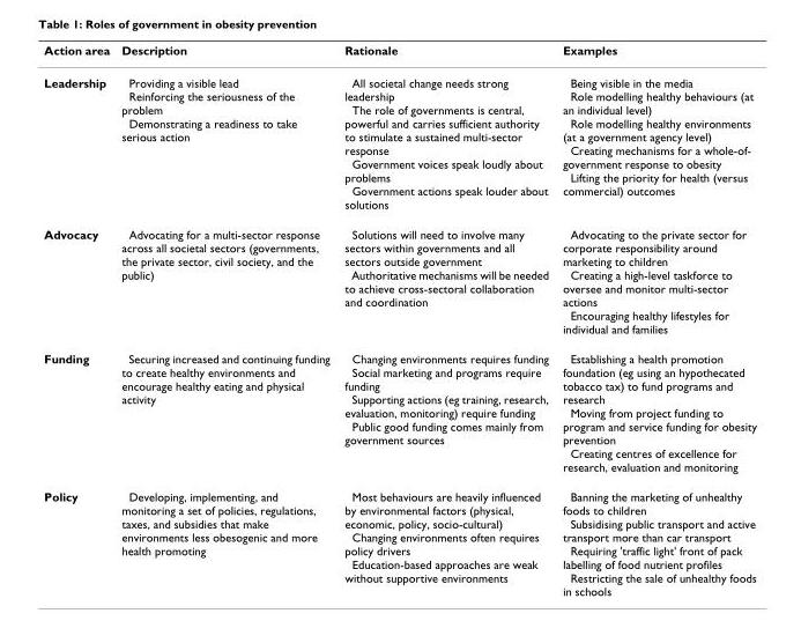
<table><thead><tr><td>Action area</td><td>Description</td><td>Rationale</td><td>Examples</td></tr></thead><tbody><tr><td>Leadership</td><td>Providing a visible lead Reinforcing the seriousness of the problem Demonstrating a readiness to take serious action</td><td>All societal change needs strong leadership The role of governments is central, powerful and carries sufficient authority to stimulate a sustained multi-sector response Government voices speak loudly about problems Government actions speak louder about solutions</td><td>Being visible in the media Role modelling healthy behaviours (at an individual level) Role modelling healthy environments (at a government agency level) Creating mechanisms for a whole-of- government response to obesity Lifting the priority for health (versus commercial) outcomes</td></tr><tr><td>Advocacy</td><td>Advocating for a multi-sector response across all societal sectors (governments, the private sector, civil society, and the public)</td><td>Solutions will need to involve many sectors within governments and all sectors outside government Authoritative mechanisms will be needed to achieve cross-sectoral collaboration and coordination</td><td>Advocating to the private sector for corporate responsibility around marketing to children Creating a high-level taskforce to oversee and monitor multi-sector actions Encouraging healthy lifestyles for individual and families</td></tr><tr><td>Funding</td><td>Securing increased and continuing funding to create healthy environments and encourage healthy eating and physical activity</td><td>Changing environments requires funding Social marketing and programs require funding Supporting actions (eg training, research, evaluation, monitoring) require funding Public good funding comes mainly from government sources</td><td>Establishing a health promotion foundation (eg using an hypothecated tobacco tax) to fund programs and research Moving from project funding to program and service funding for obesity prevention Creating centres of excellence for research, evaluation and monitoring</td></tr><tr><td>Policy</td><td>Developing, implementing, and monitoring a set of policies, regulations, taxes, and subsidies that make environments less obesogenic and more health promoting</td><td>Most behaviours are heavily influenced by environmental factors (physical, economic, policy, socio-cultural) Changing environments often requires policy drivers Education-based approaches are weak without supportive environments</td><td>Banning the marketing of unhealthy foods to children Subsidising public transport and active transport more than car transport Requiring &#x27;traffic light&#x27; front of pack labelling of food nutrient profiles Restricting the sale of unhealthy foods in schools</td></tr></tbody></table>